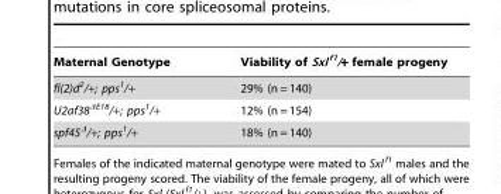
<table><thead><tr><td>Maternal Genotype</td><td>Viability of Sxl <sup>f1</sup>/+ female progeny</td></tr></thead><tbody><tr><td>fl(2)d<sup>2</sup>/+; pps<sup>1</sup>/+</td><td>29% (n = 140)</td></tr><tr><td>U2af38<sup>ΔE18</sup>/+; pps<sup>1</sup>/+</td><td>12% (n = 154)</td></tr><tr><td>spf45<sup>Δ</sup>/+; pps<sup>1</sup>/+</td><td>18% (n = 140)</td></tr></tbody></table>